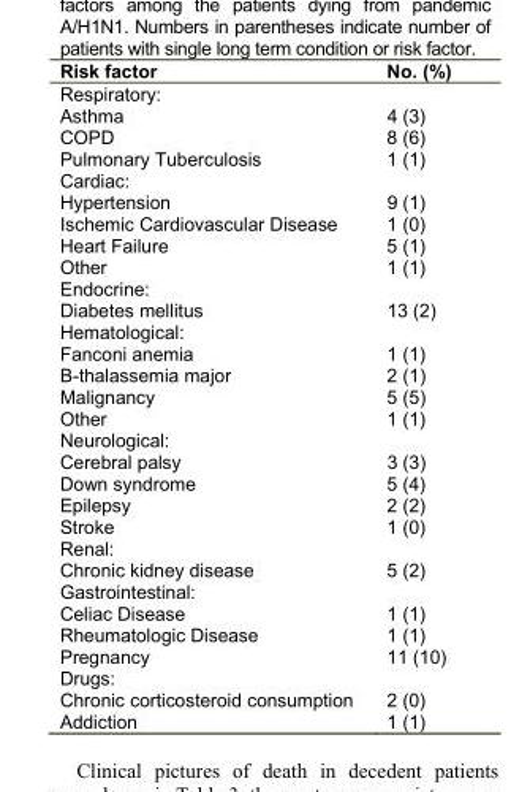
<table><thead><tr><td>Risk factor</td><td>No. (%)</td></tr></thead><tbody><tr><td colspan="2">Respiratory:</td></tr><tr><td>Asthma</td><td>4 (3)</td></tr><tr><td>COPD</td><td>8 (6)</td></tr><tr><td>Pulmonary Tuberculosis</td><td>1 (1)</td></tr><tr><td colspan="2">Cardiac:</td></tr><tr><td>Hypertension</td><td>9 (1)</td></tr><tr><td>Ischemic Cardiovascular Disease</td><td>1 (0)</td></tr><tr><td>Heart Failure</td><td>5 (1)</td></tr><tr><td>Other</td><td>1 (1)</td></tr><tr><td colspan="2">Endocrine:</td></tr><tr><td>Diabetes mellitus</td><td>13 (2)</td></tr><tr><td colspan="2">Hematological:</td></tr><tr><td>Fanconi anemia</td><td>1 (1)</td></tr><tr><td>Β-thalassemia major</td><td>2 (1)</td></tr><tr><td>Malignancy</td><td>5 (5)</td></tr><tr><td>Other</td><td>1 (1)</td></tr><tr><td colspan="2">Neurological:</td></tr><tr><td>Cerebral palsy</td><td>3 (3)</td></tr><tr><td>Down syndrome</td><td>5 (4)</td></tr><tr><td>Epilepsy</td><td>2 (2)</td></tr><tr><td>Stroke</td><td>1 (0)</td></tr><tr><td colspan="2">Renal:</td></tr><tr><td>Chronic kidney disease</td><td>5 (2)</td></tr><tr><td colspan="2">Gastrointestinal:</td></tr><tr><td>Celiac Disease</td><td>1 (1)</td></tr><tr><td>Rheumatologic Disease</td><td>1 (1)</td></tr><tr><td>Pregnancy</td><td>11 (10)</td></tr><tr><td colspan="2">Drugs:</td></tr><tr><td>Chronic corticosteroid consumption</td><td>2 (0)</td></tr><tr><td>Addiction</td><td>1 (1)</td></tr></tbody></table>